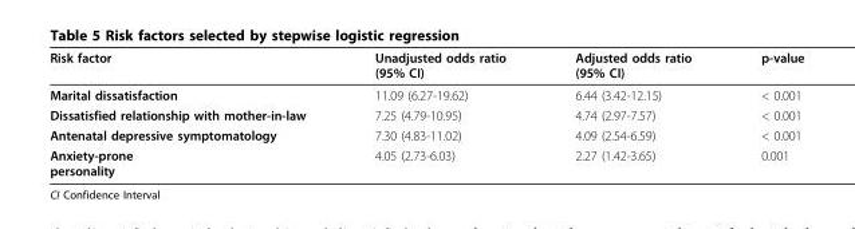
<table><thead><tr><td>Risk factor</td><td>Unadjusted odds ratio (95% CI)</td><td>Adjusted odds ratio (95% CI)</td><td>p-value</td></tr></thead><tbody><tr><td>Marital dissatisfaction</td><td>11.09 (6.27-19.62)</td><td>6.44 (3.42-12.15)</td><td>&lt; 0.001</td></tr><tr><td>Dissatisfied relationship with mother-in-law</td><td>7.25 (4.79-10.95)</td><td>4.74 (2.97-7.57)</td><td>&lt; 0.001</td></tr><tr><td>Antenatal depressive symptomatology</td><td>7.30 (4.83-11.02)</td><td>4.09 (2.54-6.59)</td><td>&lt; 0.001</td></tr><tr><td>Anxiety-prone personality</td><td>4.05 (2.73-6.03)</td><td>2.27 (1.42-3.65)</td><td>0.001</td></tr></tbody></table>